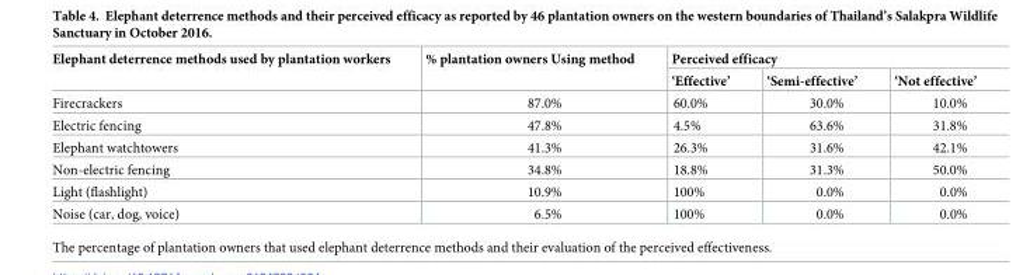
<table><thead><tr><td rowspan="2">Elephant deterrence methods used by plantation workers</td><td rowspan="2">% plantation owners Using method</td><td colspan="3">Perceived efficacy</td></tr><tr><td>‘Effective’</td><td>‘Semi-effective’</td><td>‘Not effective’</td></tr></thead><tbody><tr><td>Firecrackers</td><td>87.0%</td><td>60.0%</td><td>30.0%</td><td>10.0%</td></tr><tr><td>Electric fencing</td><td>47.8%</td><td>4.5%</td><td>63.6%</td><td>31.8%</td></tr><tr><td>Elephant watchtowers</td><td>41.3%</td><td>26.3%</td><td>31.6%</td><td>42.1%</td></tr><tr><td>Non-electric fencing</td><td>34.8%</td><td>18.8%</td><td>31.3%</td><td>50.0%</td></tr><tr><td>Light (flashlight)</td><td>10.9%</td><td>100%</td><td>0.0%</td><td>0.0%</td></tr><tr><td>Noise (car, dog, voice)</td><td>6.5%</td><td>100%</td><td>0.0%</td><td>0.0%</td></tr></tbody></table>